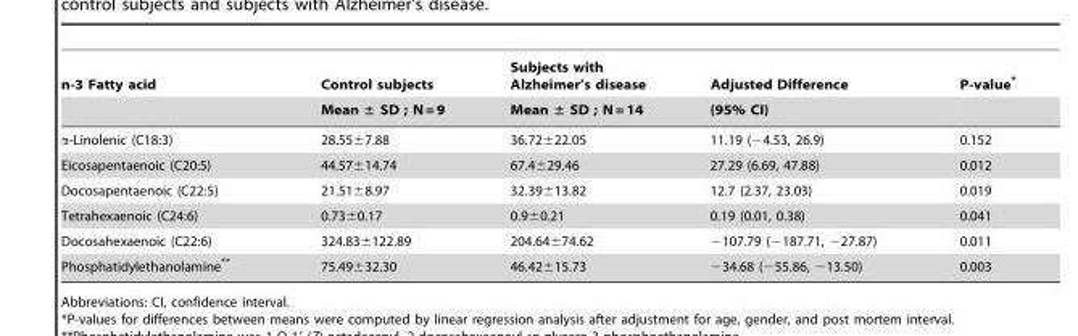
<table><thead><tr><td rowspan="2">n-3 Fatty acid</td><td rowspan="2">Control subjects Mean ± SD ; N = 9</td><td rowspan="2">Subjects with Alzheimer’s disease Mean ± SD ; N = 14</td><td rowspan="2">Adjusted Difference (95% CI)</td><td rowspan="2">P-value*</td></tr><tr></tr></thead><tbody><tr><td>α-Linolenic (C18:3)</td><td>28.55±7.88</td><td>36.72±22.05</td><td>11.19 (−4.53, 26.9)</td><td>0.152</td></tr><tr><td>Eicosapentaenoic (C20:5)</td><td>44.57±14.74</td><td>67.4±29.46</td><td>27.29 (6.69, 47.88)</td><td>0.012</td></tr><tr><td>Docosapentaenoic (C22:5)</td><td>21.51±8.97</td><td>32.39±13.82</td><td>12.7 (2.37, 23.03)</td><td>0.019</td></tr><tr><td>Tetrahexaenoic (C24:6)</td><td>0.73±0.17</td><td>0.9±0.21</td><td>0.19 (0.01, 0.38)</td><td>0.041</td></tr><tr><td>Docosahexaenoic (C22:6)</td><td>324.83±122.89</td><td>204.64±74.62</td><td>−107.79 (−187.71, −27.87)</td><td>0.011</td></tr><tr><td>Phosphatidylethanolamine**</td><td>75.49±32.30</td><td>46.42±15.73</td><td>−34.68 (−55.86, −13.50)</td><td>0.003</td></tr></tbody></table>